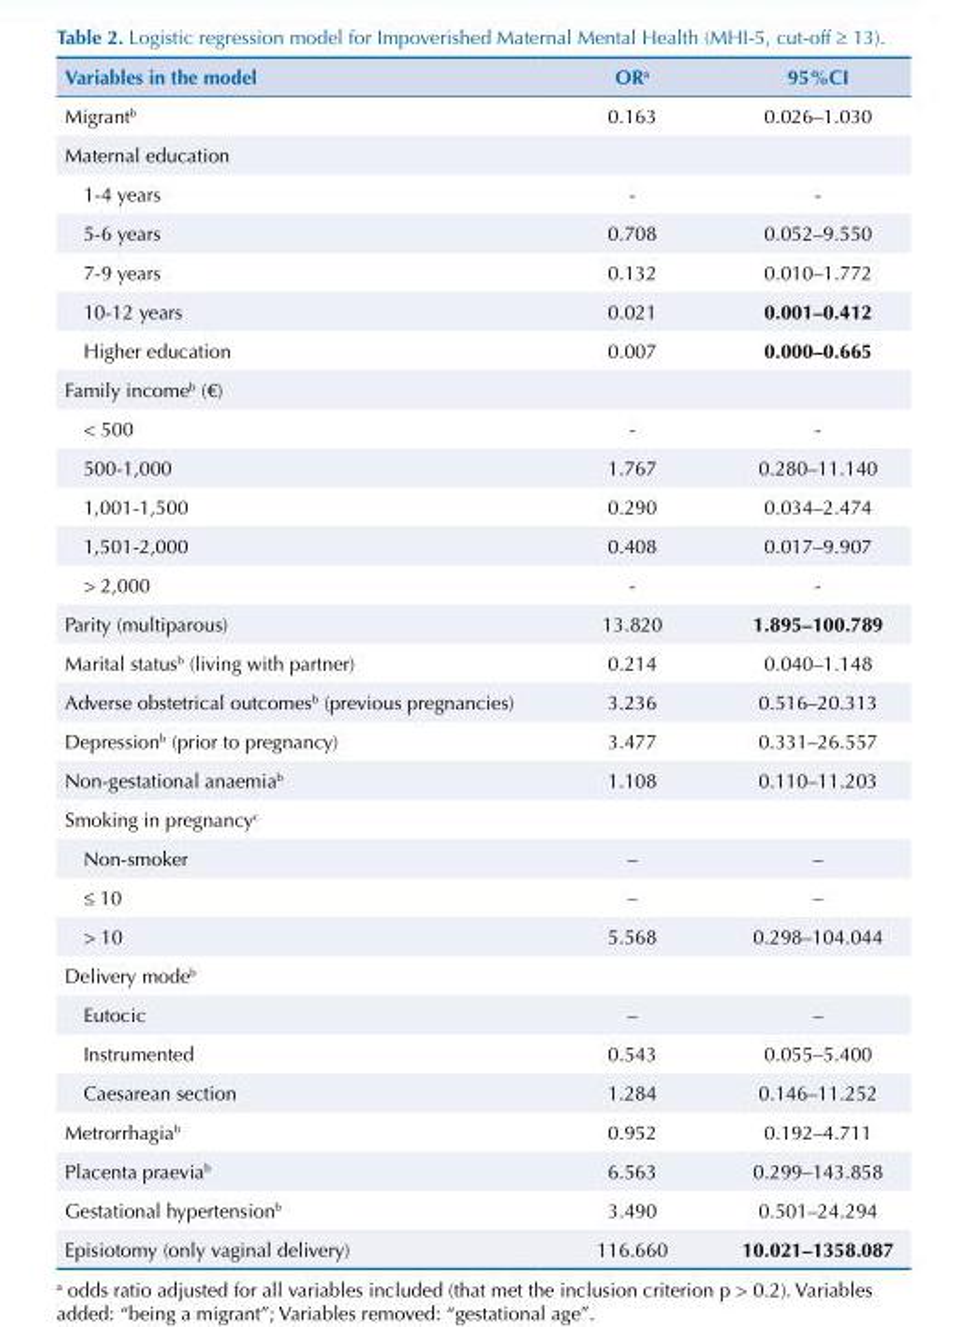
<table><thead><tr><td>Variables in the model</td><td>OR<sup>a</sup></td><td>95%CI</td></tr></thead><tbody><tr><td>Migrant<sup>b</sup></td><td>0.163</td><td>0.026–1.030</td></tr><tr><td colspan="3">Maternal education</td></tr><tr><td>1-4 years</td><td>-</td><td>-</td></tr><tr><td>5-6 years</td><td>0.708</td><td>0.052–9.550</td></tr><tr><td>7-9 years</td><td>0.132</td><td>0.010–1.772</td></tr><tr><td>10-12 years</td><td>0.021</td><td>0.001–0.412</td></tr><tr><td>Higher education</td><td>0.007</td><td>0.000–0.665</td></tr><tr><td colspan="3">Family income<sup>b</sup> (€)</td></tr><tr><td>&lt; 500</td><td>-</td><td>-</td></tr><tr><td>500-1,000</td><td>1.767</td><td>0.280–11.140</td></tr><tr><td>1,001-1,500</td><td>0.290</td><td>0.034–2.474</td></tr><tr><td>1,501-2,000</td><td>0.408</td><td>0.017–9.907</td></tr><tr><td>&gt; 2,000</td><td>-</td><td>-</td></tr><tr><td>Parity (multiparous)</td><td>13.820</td><td>1.895–100.789</td></tr><tr><td>Marital status<sup>b</sup> (living with partner)</td><td>0.214</td><td>0.040–1.148</td></tr><tr><td>Adverse obstetrical outcomes<sup>b</sup> (previous pregnancies)</td><td>3.236</td><td>0.516–20.313</td></tr><tr><td>Depression<sup>b</sup> (prior to pregnancy)</td><td>3.477</td><td>0.331–26.557</td></tr><tr><td>Non-gestational anaemia<sup>b</sup></td><td>1.108</td><td>0.110–11.203</td></tr><tr><td colspan="3">Smoking in pregnancy<sup>c</sup></td></tr><tr><td>Non-smoker</td><td>–</td><td>–</td></tr><tr><td>≤ 10</td><td>–</td><td>–</td></tr><tr><td>&gt; 10</td><td>5.568</td><td>0.298–104.044</td></tr><tr><td colspan="3">Delivery mode<sup>b</sup></td></tr><tr><td>Eutocic</td><td>–</td><td>–</td></tr><tr><td>Instrumented</td><td>0.543</td><td>0.055–5.400</td></tr><tr><td>Caesarean section</td><td>1.284</td><td>0.146–11.252</td></tr><tr><td>Metrorrhagia<sup>b</sup></td><td>0.952</td><td>0.192–4.711</td></tr><tr><td>Placenta praevia<sup>b</sup></td><td>6.563</td><td>0.299–143.858</td></tr><tr><td>Gestational hypertension<sup>b</sup></td><td>3.490</td><td>0.501–24.294</td></tr><tr><td>Episiotomy (only vaginal delivery)</td><td>116.660</td><td>10.021–1358.087</td></tr></tbody></table>